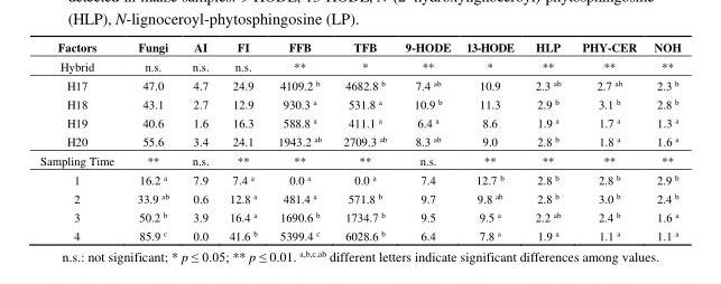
<table><thead><tr><td>Factors</td><td>Fungi</td><td>AI</td><td>FI</td><td>FFB</td><td>TFB</td><td>9-HODE</td><td>13-HODE</td><td>HLP</td><td>PHY-CER</td><td>NOH</td></tr></thead><tbody><tr><td>Hybrid</td><td>n.s.</td><td>n.s.</td><td>n.s.</td><td>**</td><td>*</td><td>**</td><td>*</td><td>**</td><td>**</td><td>**</td></tr><tr><td>H17</td><td>47.0</td><td>4.7</td><td>24.9</td><td>4109.2 <sup>b</sup></td><td>4682.8 <sup>b</sup></td><td>7.4 <sup>ab</sup></td><td>10.9</td><td>2.3 <sup>ab</sup></td><td>2.7 <sup>ab</sup></td><td>2.3 <sup>b</sup></td></tr><tr><td>H18</td><td>43.1</td><td>2.7</td><td>12.9</td><td>930.3 <sup>a</sup></td><td>531.8 <sup>a</sup></td><td>10.9 <sup>b</sup></td><td>11.3</td><td>2.9 <sup>b</sup></td><td>3.1 <sup>b</sup></td><td>2.8 <sup>b</sup></td></tr><tr><td>H19</td><td>40.6</td><td>1.6</td><td>16.3</td><td>588.8 <sup>a</sup></td><td>411.1 <sup>a</sup></td><td>6.4 <sup>a</sup></td><td>8.6</td><td>1.9 <sup>a</sup></td><td>1.7 <sup>a</sup></td><td>1.3 <sup>a</sup></td></tr><tr><td>H20</td><td>55.6</td><td>3.4</td><td>24.1</td><td>1943.2 <sup>ab</sup></td><td>2709.3 <sup>ab</sup></td><td>8.3 <sup>ab</sup></td><td>9.0</td><td>2.8 <sup>b</sup></td><td>1.8 <sup>a</sup></td><td>1.6 <sup>a</sup></td></tr><tr><td>Sampling Time</td><td>**</td><td>n.s.</td><td>**</td><td>**</td><td>**</td><td>n.s.</td><td>**</td><td>**</td><td>**</td><td>**</td></tr><tr><td>1</td><td>16.2 <sup>a</sup></td><td>7.9</td><td>7.4 <sup>a</sup></td><td>0.0 <sup>a</sup></td><td>0.0 <sup>a</sup></td><td>7.4</td><td>12.7 <sup>b</sup></td><td>2.8 <sup>b</sup></td><td>2.8 <sup>b</sup></td><td>2.9 <sup>b</sup></td></tr><tr><td>2</td><td>33.9 <sup>ab</sup></td><td>0.6</td><td>12.8 <sup>a</sup></td><td>481.4 <sup>a</sup></td><td>571.8 <sup>b</sup></td><td>9.7</td><td>9.8 <sup>ab</sup></td><td>2.8 <sup>b</sup></td><td>3.0 <sup>b</sup></td><td>2.4 <sup>b</sup></td></tr><tr><td>3</td><td>50.2 <sup>b</sup></td><td>3.9</td><td>16.4 <sup>a</sup></td><td>1690.6 <sup>b</sup></td><td>1734.7 <sup>b</sup></td><td>9.5</td><td>9.5 <sup>a</sup></td><td>2.2 <sup>ab</sup></td><td>2.4 <sup>b</sup></td><td>1.6 <sup>a</sup></td></tr><tr><td>4</td><td>85.9 <sup>c</sup></td><td>0.0</td><td>41.6 <sup>b</sup></td><td>5399.4 <sup>c</sup></td><td>6028.6 <sup>b</sup></td><td>6.4</td><td>7.8 <sup>a</sup></td><td>1.9 <sup>a</sup></td><td>1.1 <sup>a</sup></td><td>1.1 <sup>a</sup></td></tr></tbody></table>